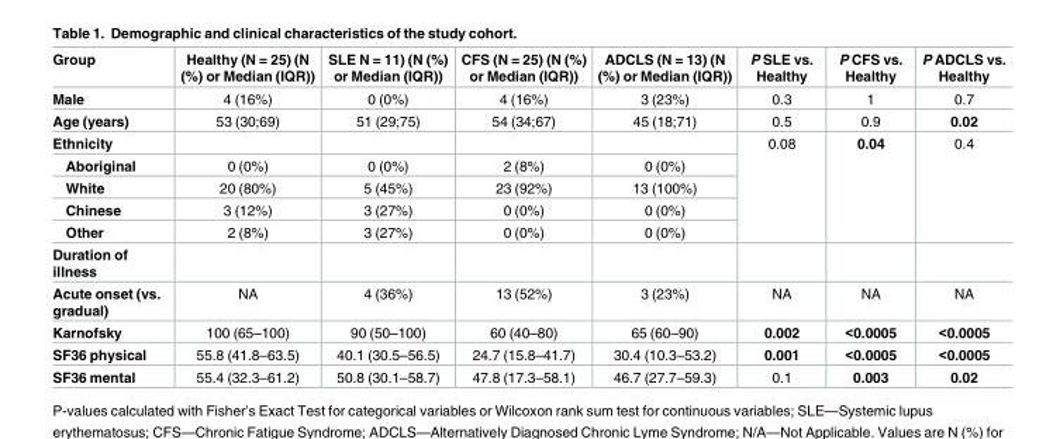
<table><thead><tr><td>Group</td><td>Healthy (N = 25) (N (%) or Median (IQR))</td><td>SLE N = 11) (N (%) or Median (IQR))</td><td>CFS (N = 25) (N (%) or Median (IQR))</td><td>ADCLS (N = 13) (N (%) or Median (IQR))</td><td>P SLE vs. Healthy</td><td>P CFS vs. Healthy</td><td>P ADCLS vs. Healthy</td></tr></thead><tbody><tr><td>Male</td><td>4 (16%)</td><td>0 (0%)</td><td>4 (16%)</td><td>3 (23%)</td><td>0.3</td><td>1</td><td>0.7</td></tr><tr><td>Age (years)</td><td>53 (30;69)</td><td>51 (29;75)</td><td>54 (34;67)</td><td>45 (18;71)</td><td>0.5</td><td>0.9</td><td>0.02</td></tr><tr><td colspan="5">Ethnicity</td><td rowspan="5">0.08</td><td rowspan="5">0.04</td><td rowspan="5">0.4</td></tr><tr><td>Aboriginal</td><td>0 (0%)</td><td>0 (0%)</td><td>2 (8%)</td><td>0 (0%)</td></tr><tr><td>White</td><td>20 (80%)</td><td>5 (45%)</td><td>23 (92%)</td><td>13 (100%)</td></tr><tr><td>Chinese</td><td>3 (12%)</td><td>3 (27%)</td><td>0 (0%)</td><td>0 (0%)</td></tr><tr><td>Other</td><td>2 (8%)</td><td>3 (27%)</td><td>0 (0%)</td><td>0 (0%)</td></tr><tr><td colspan="8">Duration of illness</td></tr><tr><td>Acute onset (vs. gradual)</td><td>NA</td><td>4 (36%)</td><td>13 (52%)</td><td>3 (23%)</td><td>NA</td><td>NA</td><td>NA</td></tr><tr><td>Karnofsky</td><td>100 (65–100)</td><td>90 (50–100)</td><td>60 (40–80)</td><td>65 (60–90)</td><td>0.002</td><td>&lt;0.0005</td><td>&lt;0.0005</td></tr><tr><td>SF36 physical</td><td>55.8 (41.8–63.5)</td><td>40.1 (30.5–56.5)</td><td>24.7 (15.8–41.7)</td><td>30.4 (10.3–53.2)</td><td>0.001</td><td>&lt;0.0005</td><td>&lt;0.0005</td></tr><tr><td>SF36 mental</td><td>55.4 (32.3–61.2)</td><td>50.8 (30.1–58.7)</td><td>47.8 (17.3–58.1)</td><td>46.7 (27.7–59.3)</td><td>0.1</td><td>0.003</td><td>0.02</td></tr></tbody></table>